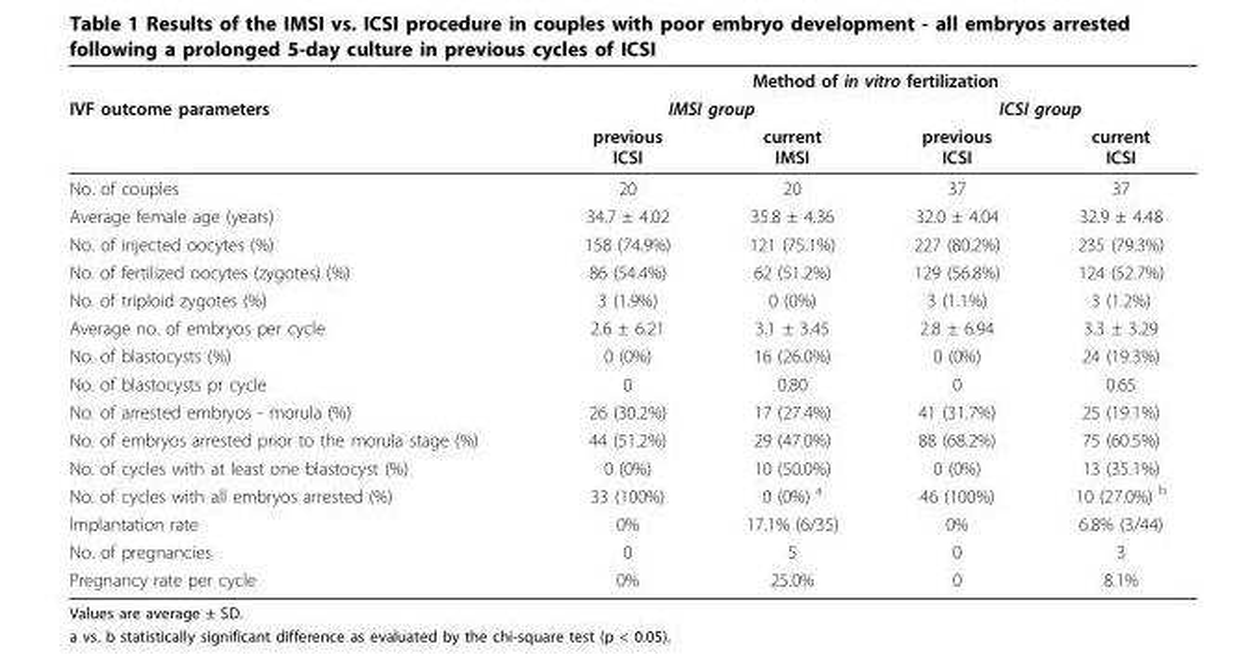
<table><thead><tr><td rowspan="3">IVF outcome parameters</td><td colspan="4">Method of in vitro fertilization</td></tr><tr><td colspan="2">IMSI group</td><td colspan="2">ICSI group</td></tr><tr><td>previous ICSI</td><td>current IMSI</td><td>previous ICSI</td><td>current ICSI</td></tr></thead><tbody><tr><td>No. of couples</td><td>20</td><td>20</td><td>37</td><td>37</td></tr><tr><td>Average female age (years)</td><td>34.7 ± 4.02</td><td>35.8 ± 4.36</td><td>32.0 ± 4.04</td><td>32.9 ± 4.48</td></tr><tr><td>No. of injected oocytes (%)</td><td>158 (74.9%)</td><td>121 (75.1%)</td><td>227 (80.2%)</td><td>235 (79.3%)</td></tr><tr><td>No. of fertilized oocytes (zygotes) (%)</td><td>86 (54.4%)</td><td>62 (51.2%)</td><td>129 (56.8%)</td><td>124 (52.7%)</td></tr><tr><td>No. of triploid zygotes (%)</td><td>3 (1.9%)</td><td>0 (0%)</td><td>3 (1.1%)</td><td>3 (1.2%)</td></tr><tr><td>Average no. of embryos per cycle</td><td>2.6 ± 6.21</td><td>3.1 ± 3.45</td><td>2.8 ± 6.94</td><td>3.3 ± 3.29</td></tr><tr><td>No. of blastocysts (%)</td><td>0 (0%)</td><td>16 (26.0%)</td><td>0 (0%)</td><td>24 (19.3%)</td></tr><tr><td>No. of blastocysts pr cycle</td><td>0</td><td>0.80</td><td>0</td><td>0.65</td></tr><tr><td>No. of arrested embryos - morula (%)</td><td>26 (30.2%)</td><td>17 (27.4%)</td><td>41 (31.7%)</td><td>25 (19.1%)</td></tr><tr><td>No. of embryos arrested prior to the morula stage (%)</td><td>44 (51.2%)</td><td>29 (47.0%)</td><td>88 (68.2%)</td><td>75 (60.5%)</td></tr><tr><td>No. of cycles with at least one blastocyst (%)</td><td>0 (0%)</td><td>10 (50.0%)</td><td>0 (0%)</td><td>13 (35.1%)</td></tr><tr><td>No. of cycles with all embryos arrested (%)</td><td>33 (100%)</td><td>0 (0%) <sup>a</sup></td><td>46 (100%)</td><td>10 (27.0%) <sup>b</sup></td></tr><tr><td>Implantation rate</td><td>0%</td><td>17.1% (6/35)</td><td>0%</td><td>6.8% (3/44)</td></tr><tr><td>No. of pregnancies</td><td>0</td><td>5</td><td>0</td><td>3</td></tr><tr><td>Pregnancy rate per cycle</td><td>0%</td><td>25.0%</td><td>0</td><td>8.1%</td></tr></tbody></table>